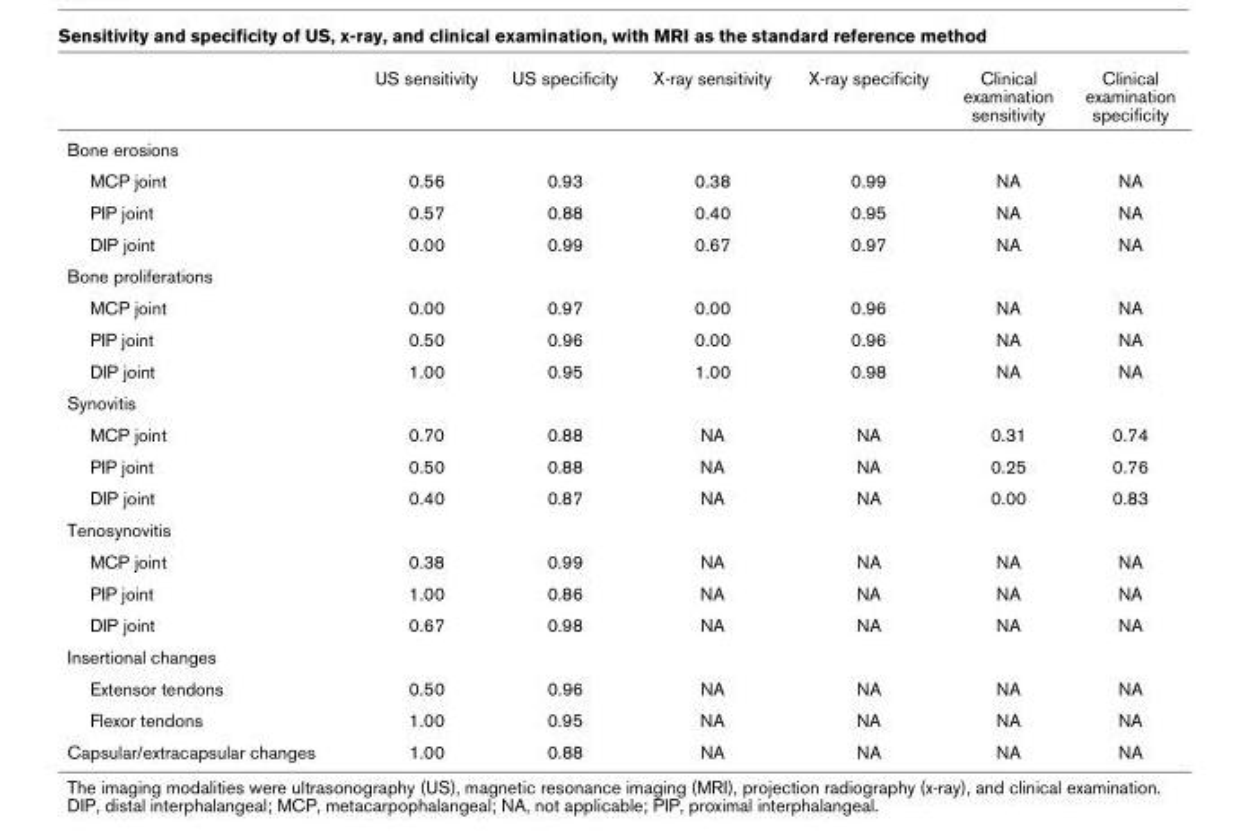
<table><thead><tr><td></td><td>US sensitivity</td><td>US specificity</td><td>X-ray sensitivity</td><td>X-ray specificity</td><td>Clinical examination sensitivity</td><td>Clinical examination specificity</td></tr></thead><tbody><tr><td colspan="7">Bone erosions</td></tr><tr><td>MCP joint</td><td>0.56</td><td>0.93</td><td>0.38</td><td>0.99</td><td>NA</td><td>NA</td></tr><tr><td>PIP joint</td><td>0.57</td><td>0.88</td><td>0.40</td><td>0.95</td><td>NA</td><td>NA</td></tr><tr><td>DIP joint</td><td>0.00</td><td>0.99</td><td>0.67</td><td>0.97</td><td>NA</td><td>NA</td></tr><tr><td colspan="7">Bone proliferations</td></tr><tr><td>MCP joint</td><td>0.00</td><td>0.97</td><td>0.00</td><td>0.96</td><td>NA</td><td>NA</td></tr><tr><td>PIP joint</td><td>0.50</td><td>0.96</td><td>0.00</td><td>0.96</td><td>NA</td><td>NA</td></tr><tr><td>DIP joint</td><td>1.00</td><td>0.95</td><td>1.00</td><td>0.98</td><td>NA</td><td>NA</td></tr><tr><td colspan="7">Synovitis</td></tr><tr><td>MCP joint</td><td>0.70</td><td>0.88</td><td>NA</td><td>NA</td><td>0.31</td><td>0.74</td></tr><tr><td>PIP joint</td><td>0.50</td><td>0.88</td><td>NA</td><td>NA</td><td>0.25</td><td>0.76</td></tr><tr><td>DIP joint</td><td>0.40</td><td>0.87</td><td>NA</td><td>NA</td><td>0.00</td><td>0.83</td></tr><tr><td colspan="7">Tenosynovitis</td></tr><tr><td>MCP joint</td><td>0.38</td><td>0.99</td><td>NA</td><td>NA</td><td>NA</td><td>NA</td></tr><tr><td>PIP joint</td><td>1.00</td><td>0.86</td><td>NA</td><td>NA</td><td>NA</td><td>NA</td></tr><tr><td>DIP joint</td><td>0.67</td><td>0.98</td><td>NA</td><td>NA</td><td>NA</td><td>NA</td></tr><tr><td colspan="7">Insertional changes</td></tr><tr><td>Extensor tendons</td><td>0.50</td><td>0.96</td><td>NA</td><td>NA</td><td>NA</td><td>NA</td></tr><tr><td>Flexor tendons</td><td>1.00</td><td>0.95</td><td>NA</td><td>NA</td><td>NA</td><td>NA</td></tr><tr><td>Capsular/extracapsular changes</td><td>1.00</td><td>0.88</td><td>NA</td><td>NA</td><td>NA</td><td>NA</td></tr></tbody></table>